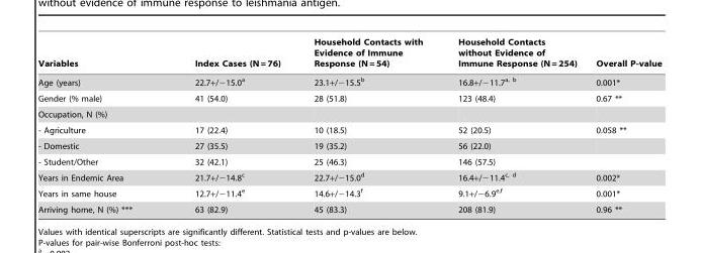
<table><thead><tr><td>Variables</td><td>Index Cases (N = 76)</td><td>Household Contacts with Evidence of Immune Response (N = 54)</td><td>Household Contacts without Evidence of Immune Response (N = 254)</td><td>Overall P-value</td></tr></thead><tbody><tr><td>Age (years)</td><td>22.7+/−15.0<sup>a</sup></td><td>23.1+/−15.5<sup>b</sup></td><td>16.8+/−11.7<sup>a,</sup> b</td><td>0.001*</td></tr><tr><td>Gender (% male)</td><td>41 (54.0)</td><td>28 (51.8)</td><td>123 (48.4)</td><td>0.67 **</td></tr><tr><td colspan="5">Occupation, N (%)</td></tr><tr><td>- Agriculture</td><td>17 (22.4)</td><td>10 (18.5)</td><td>52 (20.5)</td><td>0.058 **</td></tr><tr><td>- Domestic</td><td>27 (35.5)</td><td>19 (35.2)</td><td>56 (22.0)</td><td></td></tr><tr><td>- Student/Other</td><td>32 (42.1)</td><td>25 (46.3)</td><td>146 (57.5)</td><td></td></tr><tr><td>Years in Endemic Area</td><td>21.7+/−14.8<sup>c</sup></td><td>22.7+/−15.0<sup>d</sup></td><td>16.4+/−11.4<sup>c,</sup> d</td><td>0.002*</td></tr><tr><td>Years in same house</td><td>12.7+/−11.4<sup>e</sup></td><td>14.6+/−14.3<sup>f</sup></td><td>9.1+/−6.9<sup>e,</sup>f</td><td>0.001*</td></tr><tr><td>Arriving home, N (%) ***</td><td>63 (82.9)</td><td>45 (83.3)</td><td>208 (81.9)</td><td>0.96 **</td></tr></tbody></table>